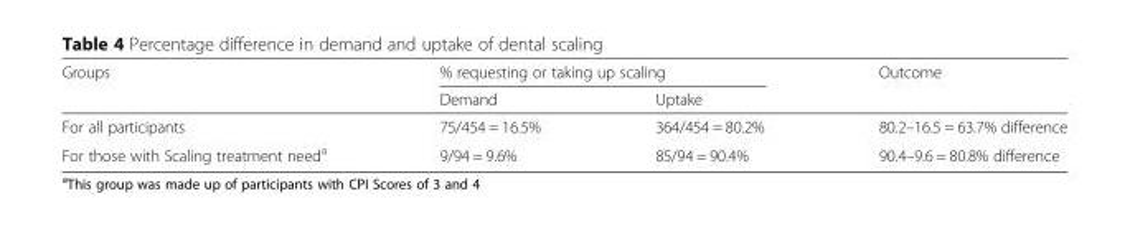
<table><thead><tr><td rowspan="2">Groups</td><td colspan="2">% requesting or taking up scaling</td><td rowspan="2">Outcome</td></tr><tr><td>Demand</td><td>Uptake</td></tr></thead><tbody><tr><td>For all participants</td><td>75/454 = 16.5%</td><td>364/454 = 80.2%</td><td>80.2–16.5 = 63.7% difference</td></tr><tr><td>For those with Scaling treatment need<sup>a</sup></td><td>9/94 = 9.6%</td><td>85/94 = 90.4%</td><td>90.4–9.6 = 80.8% difference</td></tr></tbody></table>